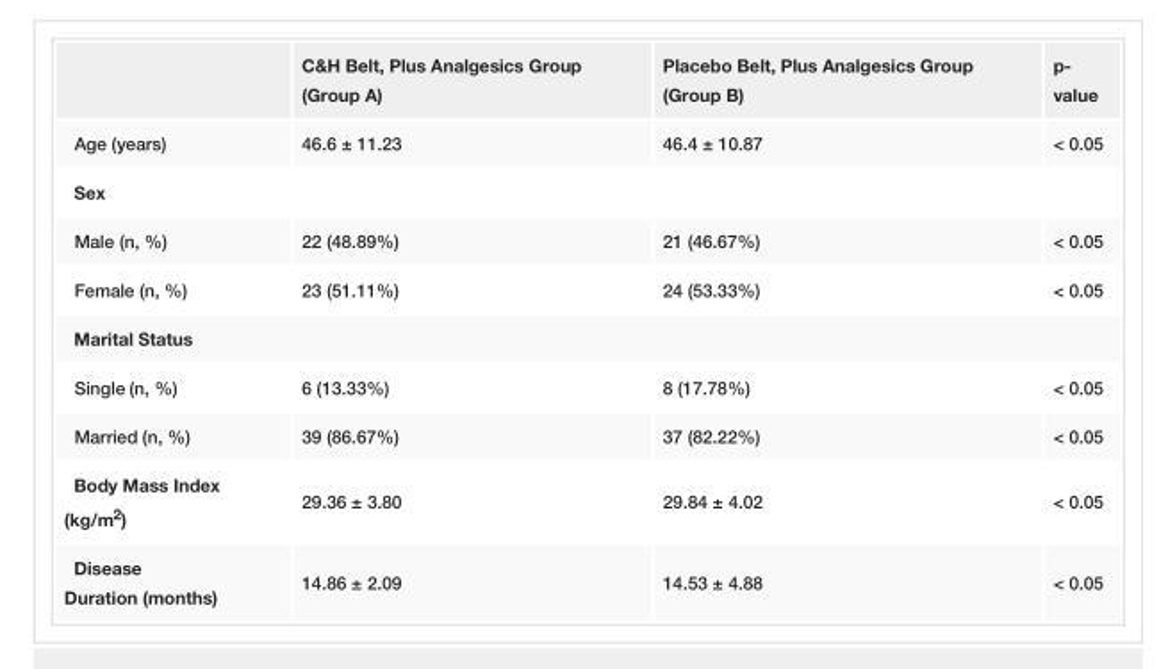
<table><thead><tr><td></td><td>C&amp;H Belt, Plus Analgesics Group (Group A)</td><td>Placebo Belt, Plus Analgesics Group (Group B)</td><td>p- value</td></tr></thead><tbody><tr><td>Age (years)</td><td>46.6 ± 11.23</td><td>46.4 ± 10.87</td><td>&lt; 0.05</td></tr><tr><td colspan="4">Sex</td></tr><tr><td>Male (n, %)</td><td>22 (48.89%)</td><td>21 (46.67%)</td><td>&lt; 0.05</td></tr><tr><td>Female (n, %)</td><td>23 (51.11%)</td><td>24 (53.33%)</td><td>&lt; 0.05</td></tr><tr><td colspan="4">Marital Status</td></tr><tr><td>Single (n, %)</td><td>6 (13.33%)</td><td>8 (17.78%)</td><td>&lt; 0.05</td></tr><tr><td>Married (n, %)</td><td>39 (86.67%)</td><td>37 (82.22%)</td><td>&lt; 0.05</td></tr><tr><td>Body Mass Index (kg/m<sup>2</sup>)</td><td>29.36 ± 3.80</td><td>29.84 ± 4.02</td><td>&lt; 0.05</td></tr><tr><td>Disease Duration (months)</td><td>14.86 ± 2.09</td><td>14.53 ± 4.88</td><td>&lt; 0.05</td></tr></tbody></table>